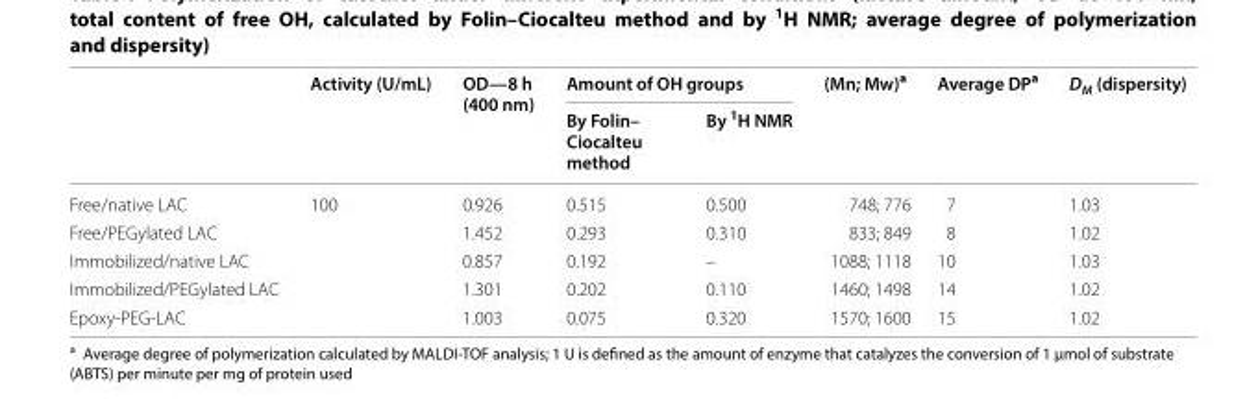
<table><thead><tr><td rowspan="2"></td><td rowspan="2">Activity (U/mL)</td><td rowspan="2">OD—8 h (400 nm)</td><td colspan="2">Amount of OH groups</td><td rowspan="2">(Mn; Mw)<sup>a</sup></td><td rowspan="2">Average DP<sup>a</sup></td><td rowspan="2">D<sub>M</sub> (dispersity)</td></tr><tr><td>By Folin– Ciocalteu method</td><td>By <sup>1</sup>H NMR</td></tr></thead><tbody><tr><td>Free/native LAC</td><td rowspan="5">100</td><td>0.926</td><td>0.515</td><td>0.500</td><td>748; 776</td><td>7</td><td>1.03</td></tr><tr><td>Free/PEGylated LAC</td><td>1.452</td><td>0.293</td><td>0.310</td><td>833; 849</td><td>8</td><td>1.02</td></tr><tr><td>Immobilized/native LAC</td><td>0.857</td><td>0.192</td><td>–</td><td>1088; 1118</td><td>10</td><td>1.03</td></tr><tr><td>Immobilized/PEGylated LAC</td><td>1.301</td><td>0.202</td><td>0.110</td><td>1460; 1498</td><td>14</td><td>1.02</td></tr><tr><td>Epoxy‑PEG‑LAC</td><td>1.003</td><td>0.075</td><td>0.320</td><td>1570; 1600</td><td>15</td><td>1.02</td></tr></tbody></table>